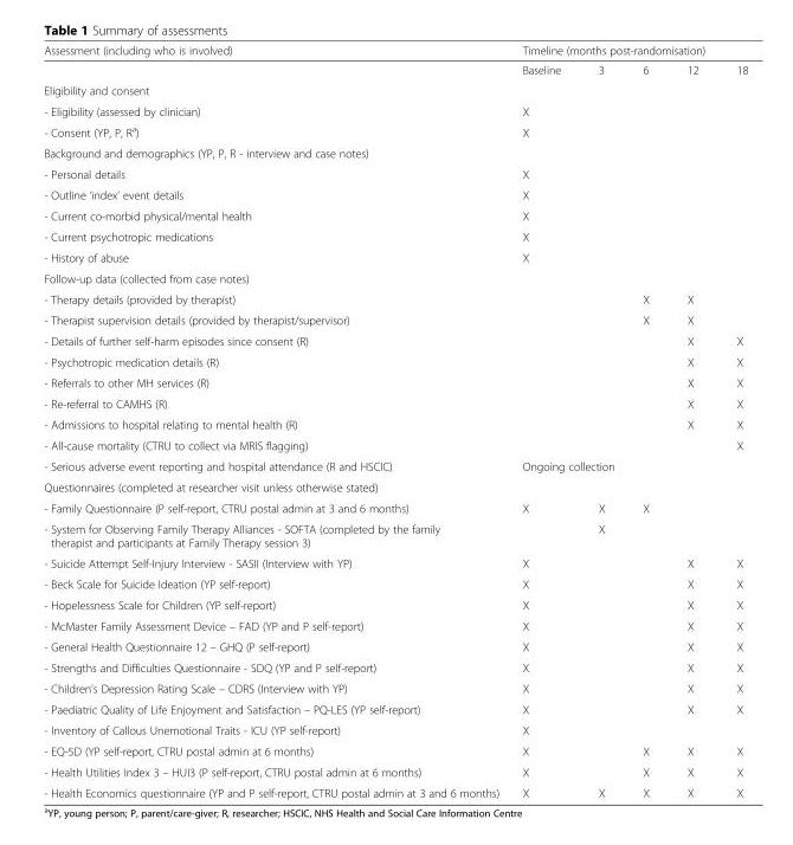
<table><thead><tr><td rowspan="2">Assessment (including who is involved)</td><td colspan="5">Timeline (months post-randomisation)</td></tr><tr><td>Baseline</td><td>3</td><td>6</td><td>12</td><td>18</td></tr></thead><tbody><tr><td colspan="6">Eligibility and consent</td></tr><tr><td>- Eligibility (assessed by clinician)</td><td>X</td><td></td><td></td><td></td><td></td></tr><tr><td>- Consent (YP, P, R<sup>a</sup>)</td><td>X</td><td></td><td></td><td></td><td></td></tr><tr><td colspan="6">Background and demographics (YP, P, R - interview and case notes)</td></tr><tr><td>- Personal details</td><td>X</td><td></td><td></td><td></td><td></td></tr><tr><td>- Outline ‘index’ event details</td><td>X</td><td></td><td></td><td></td><td></td></tr><tr><td>- Current co-morbid physical/mental health</td><td>X</td><td></td><td></td><td></td><td></td></tr><tr><td>- Current psychotropic medications</td><td>X</td><td></td><td></td><td></td><td></td></tr><tr><td>- History of abuse</td><td>X</td><td></td><td></td><td></td><td></td></tr><tr><td colspan="6">Follow-up data (collected from case notes)</td></tr><tr><td>- Therapy details (provided by therapist)</td><td></td><td></td><td>X</td><td>X</td><td></td></tr><tr><td>- Therapist supervision details (provided by therapist/supervisor)</td><td></td><td></td><td>X</td><td>X</td><td></td></tr><tr><td colspan="2">- Details of further self-harm episodes since consent (R)</td><td></td><td></td><td>X</td><td>X</td></tr><tr><td>- Psychotropic medication details (R)</td><td></td><td></td><td></td><td>X</td><td>X</td></tr><tr><td>- Referrals to other MH services (R)</td><td></td><td></td><td></td><td>X</td><td>X</td></tr><tr><td>- Re-referral to CAMHS (R)</td><td></td><td></td><td></td><td>X</td><td>X</td></tr><tr><td>- Admissions to hospital relating to mental health (R)</td><td></td><td></td><td></td><td>X</td><td>X</td></tr><tr><td>- All-cause mortality (CTRU to collect via MRIS flagging)</td><td></td><td></td><td></td><td></td><td>X</td></tr><tr><td>- Serious adverse event reporting and hospital attendance (R and HSCIC)</td><td colspan="5">Ongoing collection</td></tr><tr><td colspan="6">Questionnaires (completed at researcher visit unless otherwise stated)</td></tr><tr><td>- Family Questionnaire (P self-report, CTRU postal admin at 3 and 6 months)</td><td>X</td><td>X</td><td>X</td><td></td><td></td></tr><tr><td>- System for Observing Family Therapy Alliances - SOFTA (completed by the family therapist and participants at Family Therapy session 3)</td><td></td><td>X</td><td></td><td></td><td></td></tr><tr><td>- Suicide Attempt Self-Injury Interview - SASII (Interview with YP)</td><td>X</td><td></td><td></td><td>X</td><td>X</td></tr><tr><td>- Beck Scale for Suicide Ideation (YP self-report)</td><td>X</td><td></td><td></td><td>X</td><td>X</td></tr><tr><td>- Hopelessness Scale for Children (YP self-report)</td><td>X</td><td></td><td></td><td>X</td><td>X</td></tr><tr><td>- McMaster Family Assessment Device – FAD (YP and P self-report)</td><td>X</td><td></td><td></td><td>X</td><td>X</td></tr><tr><td>- General Health Questionnaire 12 – GHQ (P self-report)</td><td>X</td><td></td><td></td><td>X</td><td>X</td></tr><tr><td>- Strengths and Difficulties Questionnaire - SDQ (YP and P self-report)</td><td>X</td><td></td><td></td><td>X</td><td>X</td></tr><tr><td>- Children’s Depression Rating Scale – CDRS (Interview with YP)</td><td>X</td><td></td><td></td><td>X</td><td>X</td></tr><tr><td>- Paediatric Quality of Life Enjoyment and Satisfaction – PQ-LES (YP self-report)</td><td>X</td><td></td><td></td><td>X</td><td>X</td></tr><tr><td>- Inventory of Callous Unemotional Traits - ICU (YP self-report)</td><td>X</td><td></td><td></td><td></td><td></td></tr><tr><td>- EQ-5D (YP self-report, CTRU postal admin at 6 months)</td><td>X</td><td></td><td>X</td><td>X</td><td>X</td></tr><tr><td>- Health Utilities Index 3 – HUI3 (P self-report, CTRU postal admin at 6 months)</td><td>X</td><td></td><td>X</td><td>X</td><td>X</td></tr><tr><td>- Health Economics questionnaire (YP and P self-report, CTRU postal admin at 3 and 6 months)</td><td>X</td><td>X</td><td>X</td><td>X</td><td>X</td></tr></tbody></table>